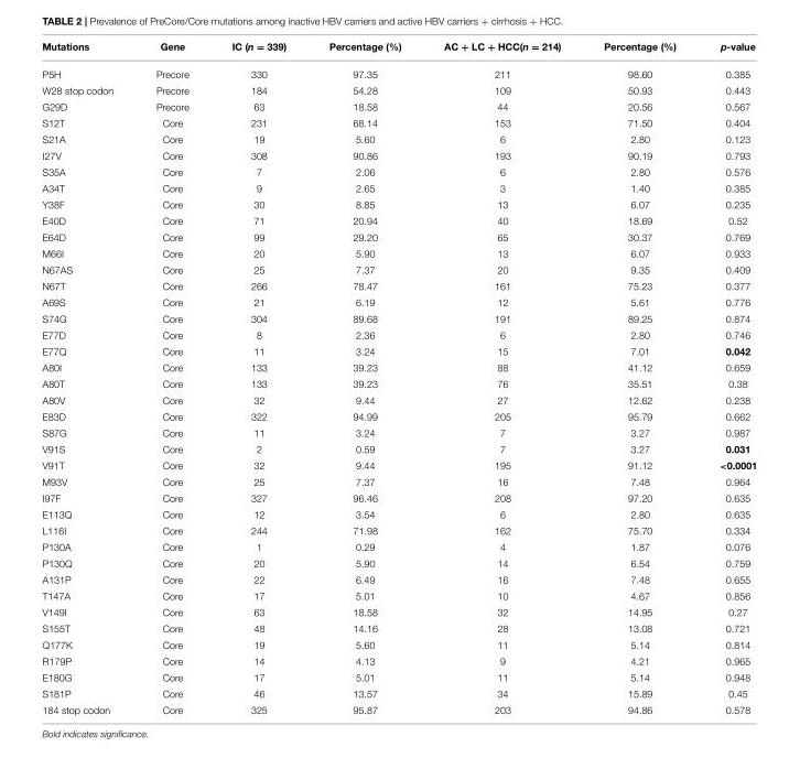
<table><thead><tr><td>Mutations</td><td>Gene</td><td>IC (n = 339)</td><td>Percentage (%)</td><td>AC + LC + HCC(n = 214)</td><td>Percentage (%)</td><td>p-value</td></tr></thead><tbody><tr><td>P5H</td><td>Precore</td><td>330</td><td>97.35</td><td>211</td><td>98.60</td><td>0.385</td></tr><tr><td>W28 stop codon</td><td>Precore</td><td>184</td><td>54.28</td><td>109</td><td>50.93</td><td>0.443</td></tr><tr><td>G29D</td><td>Precore</td><td>63</td><td>18.58</td><td>44</td><td>20.56</td><td>0.567</td></tr><tr><td>S12T</td><td>Core</td><td>231</td><td>68.14</td><td>153</td><td>71.50</td><td>0.404</td></tr><tr><td>S21A</td><td>Core</td><td>19</td><td>5.60</td><td>6</td><td>2.80</td><td>0.123</td></tr><tr><td>I27V</td><td>Core</td><td>308</td><td>90.86</td><td>193</td><td>90.19</td><td>0.793</td></tr><tr><td>S35A</td><td>Core</td><td>7</td><td>2.06</td><td>6</td><td>2.80</td><td>0.576</td></tr><tr><td>A34T</td><td>Core</td><td>9</td><td>2.65</td><td>3</td><td>1.40</td><td>0.385</td></tr><tr><td>Y38F</td><td>Core</td><td>30</td><td>8.85</td><td>13</td><td>6.07</td><td>0.235</td></tr><tr><td>E40D</td><td>Core</td><td>71</td><td>20.94</td><td>40</td><td>18.69</td><td>0.52</td></tr><tr><td>E64D</td><td>Core</td><td>99</td><td>29.20</td><td>65</td><td>30.37</td><td>0.769</td></tr><tr><td>M66I</td><td>Core</td><td>20</td><td>5.90</td><td>13</td><td>6.07</td><td>0.933</td></tr><tr><td>N67AS</td><td>Core</td><td>25</td><td>7.37</td><td>20</td><td>9.35</td><td>0.409</td></tr><tr><td>N67T</td><td>Core</td><td>266</td><td>78.47</td><td>161</td><td>75.23</td><td>0.377</td></tr><tr><td>A69S</td><td>Core</td><td>21</td><td>6.19</td><td>12</td><td>5.61</td><td>0.776</td></tr><tr><td>S74G</td><td>Core</td><td>304</td><td>89.68</td><td>191</td><td>89.25</td><td>0.874</td></tr><tr><td>E77D</td><td>Core</td><td>8</td><td>2.36</td><td>6</td><td>2.80</td><td>0.746</td></tr><tr><td>E77Q</td><td>Core</td><td>11</td><td>3.24</td><td>15</td><td>7.01</td><td>0.042</td></tr><tr><td>A80I</td><td>Core</td><td>133</td><td>39.23</td><td>88</td><td>41.12</td><td>0.659</td></tr><tr><td>A80T</td><td>Core</td><td>133</td><td>39.23</td><td>76</td><td>35.51</td><td>0.38</td></tr><tr><td>A80V</td><td>Core</td><td>32</td><td>9.44</td><td>27</td><td>12.62</td><td>0.238</td></tr><tr><td>E83D</td><td>Core</td><td>322</td><td>94.99</td><td>205</td><td>95.79</td><td>0.662</td></tr><tr><td>S87G</td><td>Core</td><td>11</td><td>3.24</td><td>7</td><td>3.27</td><td>0.987</td></tr><tr><td>V91S</td><td>Core</td><td>2</td><td>0.59</td><td>7</td><td>3.27</td><td>0.031</td></tr><tr><td>V91T</td><td>Core</td><td>32</td><td>9.44</td><td>195</td><td>91.12</td><td>&lt;0.0001</td></tr><tr><td>M93V</td><td>Core</td><td>25</td><td>7.37</td><td>16</td><td>7.48</td><td>0.964</td></tr><tr><td>I97F</td><td>Core</td><td>327</td><td>96.46</td><td>208</td><td>97.20</td><td>0.635</td></tr><tr><td>E113Q</td><td>Core</td><td>12</td><td>3.54</td><td>6</td><td>2.80</td><td>0.635</td></tr><tr><td>L116I</td><td>Core</td><td>244</td><td>71.98</td><td>162</td><td>75.70</td><td>0.334</td></tr><tr><td>P130A</td><td>Core</td><td>1</td><td>0.29</td><td>4</td><td>1.87</td><td>0.076</td></tr><tr><td>P130Q</td><td>Core</td><td>20</td><td>5.90</td><td>14</td><td>6.54</td><td>0.759</td></tr><tr><td>A131P</td><td>Core</td><td>22</td><td>6.49</td><td>16</td><td>7.48</td><td>0.655</td></tr><tr><td>T147A</td><td>Core</td><td>17</td><td>5.01</td><td>10</td><td>4.67</td><td>0.856</td></tr><tr><td>V149I</td><td>Core</td><td>63</td><td>18.58</td><td>32</td><td>14.95</td><td>0.27</td></tr><tr><td>S155T</td><td>Core</td><td>48</td><td>14.16</td><td>28</td><td>13.08</td><td>0.721</td></tr><tr><td>Q177K</td><td>Core</td><td>19</td><td>5.60</td><td>11</td><td>5.14</td><td>0.814</td></tr><tr><td>R179P</td><td>Core</td><td>14</td><td>4.13</td><td>9</td><td>4.21</td><td>0.965</td></tr><tr><td>E180G</td><td>Core</td><td>17</td><td>5.01</td><td>11</td><td>5.14</td><td>0.948</td></tr><tr><td>S181P</td><td>Core</td><td>46</td><td>13.57</td><td>34</td><td>15.89</td><td>0.45</td></tr><tr><td>184 stop codon</td><td>Core</td><td>325</td><td>95.87</td><td>203</td><td>94.86</td><td>0.578</td></tr></tbody></table>